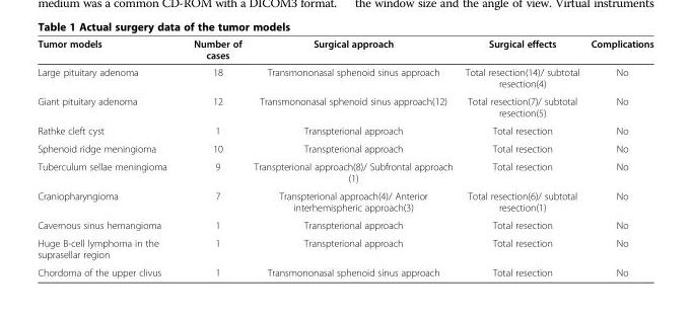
<table><thead><tr><td>Tumor models</td><td>Number of cases</td><td>Surgical approach</td><td>Surgical effects</td><td>Complications</td></tr></thead><tbody><tr><td>Large pituitary adenoma</td><td>18</td><td>Transmononasal sphenoid sinus approach</td><td>Total resection(14)/ subtotal resection(4)</td><td>No</td></tr><tr><td>Giant pituitary adenoma</td><td>12</td><td>Transmononasal sphenoid sinus approach(12)</td><td>Total resection(7)/ subtotal resection(5)</td><td>No</td></tr><tr><td>Rathke cleft cyst</td><td>1</td><td>Transpterional approach</td><td>Total resection</td><td>No</td></tr><tr><td>Sphenoid ridge meningioma</td><td>10</td><td>Transpterional approach</td><td>Total resection</td><td>No</td></tr><tr><td>Tuberculum sellae meningioma</td><td>9</td><td>Transpterional approach(8)/ Subfrontal approach (1)</td><td>Total resection</td><td>No</td></tr><tr><td>Craniopharyngioma</td><td>7</td><td>Transpterional approach(4)/ Anterior interhemispheric approach(3)</td><td>Total resection(6)/ subtotal resection(1)</td><td>No</td></tr><tr><td>Cavernous sinus hemangioma</td><td>1</td><td>Transpterional approach</td><td>Total resection</td><td>No</td></tr><tr><td>Huge B-cell lymphoma in the suprasellar region</td><td>1</td><td>Transpterional approach</td><td>Total resection</td><td>No</td></tr><tr><td>Chordoma of the upper clivus</td><td>1</td><td>Transmononasal sphenoid sinus approach</td><td>Total resection</td><td>No</td></tr></tbody></table>